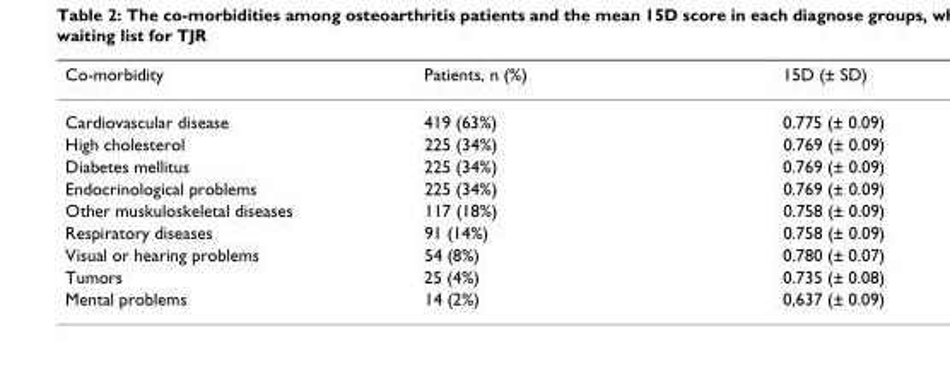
<table><thead><tr><td>Co-morbidity</td><td>Patients, n (%)</td><td>15D (± SD)</td></tr></thead><tbody><tr><td>Cardiovascular disease</td><td>419 (63%)</td><td>0.775 (± 0.09)</td></tr><tr><td>High cholesterol</td><td>225 (34%)</td><td>0.769 (± 0.09)</td></tr><tr><td>Diabetes mellitus</td><td>225 (34%)</td><td>0.769 (± 0.09)</td></tr><tr><td>Endocrinological problems</td><td>225 (34%)</td><td>0.769 (± 0.09)</td></tr><tr><td>Other muskuloskeletal diseases</td><td>117 (18%)</td><td>0.758 (± 0.09)</td></tr><tr><td>Respiratory diseases</td><td>91 (14%)</td><td>0.758 (± 0.09)</td></tr><tr><td>Visual or hearing problems</td><td>54 (8%)</td><td>0.780 (± 0.07)</td></tr><tr><td>Tumors</td><td>25 (4%)</td><td>0.735 (± 0.08)</td></tr><tr><td>Mental problems</td><td>14 (2%)</td><td>0,637 (± 0.09)</td></tr></tbody></table>